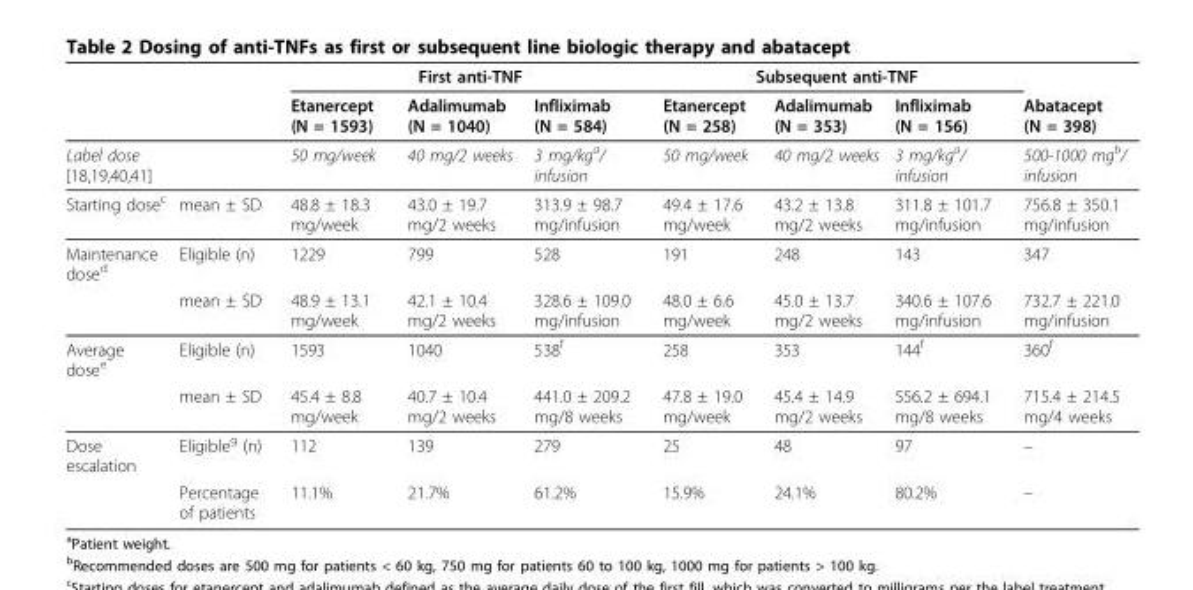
<table><thead><tr><td rowspan="2"></td><td rowspan="2"></td><td colspan="3">First anti-TNF</td><td colspan="3">Subsequent anti-TNF</td><td rowspan="2">Abatacept (N = 398)</td></tr><tr><td>Etanercept (N = 1593)</td><td>Adalimumab (N = 1040)</td><td>Infliximab (N = 584)</td><td>Etanercept (N = 258)</td><td>Adalimumab (N = 353)</td><td>Infliximab (N = 156)</td></tr></thead><tbody><tr><td>Label dose [18,19,40,41]</td><td></td><td>50 mg/week</td><td>40 mg/2 weeks</td><td>3 mg/kg<sup>a</sup>/ infusion</td><td>50 mg/week</td><td>40 mg/2 weeks</td><td>3 mg/kg<sup>a</sup>/ infusion</td><td>500-1000 mg<sup>b</sup>/ infusion</td></tr><tr><td>Starting dose<sup>c</sup></td><td>mean ± SD</td><td>48.8 ± 18.3 mg/week</td><td>43.0 ± 19.7 mg/2 weeks</td><td>313.9 ± 98.7 mg/infusion</td><td>49.4 ± 17.6 mg/week</td><td>43.2 ± 13.8 mg/2 weeks</td><td>311.8 ± 101.7 mg/infusion</td><td>756.8 ± 350.1 mg/infusion</td></tr><tr><td rowspan="2">Maintenance dose<sup>d</sup></td><td>Eligible (n)</td><td>1229</td><td>799</td><td>528</td><td>191</td><td>248</td><td>143</td><td>347</td></tr><tr><td>mean ± SD</td><td>48.9 ± 13.1 mg/week</td><td>42.1 ± 10.4 mg/2 weeks</td><td>328.6 ± 109.0 mg/infusion</td><td>48.0 ± 6.6 mg/week</td><td>45.0 ± 13.7 mg/2 weeks</td><td>340.6 ± 107.6 mg/infusion</td><td>732.7 ± 221.0 mg/infusion</td></tr><tr><td rowspan="2">Average dose<sup>e</sup></td><td>Eligible (n)</td><td>1593</td><td>1040</td><td>538<sup>f</sup></td><td>258</td><td>353</td><td>144<sup>f</sup></td><td>360<sup>f</sup></td></tr><tr><td>mean ± SD</td><td>45.4 ± 8.8 mg/week</td><td>40.7 ± 10.4 mg/2 weeks</td><td>441.0 ± 209.2 mg/8 weeks</td><td>47.8 ± 19.0 mg/week</td><td>45.4 ± 14.9 mg/2 weeks</td><td>556.2 ± 694.1 mg/8 weeks</td><td>715.4 ± 214.5 mg/4 weeks</td></tr><tr><td rowspan="2">Dose escalation</td><td>Eligible<sup>g</sup> (n)</td><td>112</td><td>139</td><td>279</td><td>25</td><td>48</td><td>97</td><td>–</td></tr><tr><td>Percentage of patients</td><td>11.1%</td><td>21.7%</td><td>61.2%</td><td>15.9%</td><td>24.1%</td><td>80.2%</td><td>–</td></tr></tbody></table>